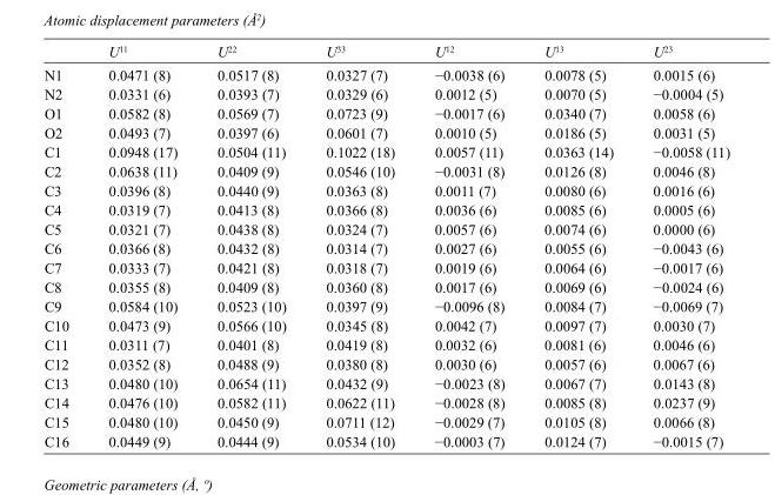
<table><thead><tr><td></td><td>U<sup>11</sup></td><td>U<sup>22</sup></td><td>U<sup>33</sup></td><td>U<sup>12</sup></td><td>U<sup>13</sup></td><td>U<sup>23</sup></td></tr></thead><tbody><tr><td>N1</td><td>0.0471 (8)</td><td>0.0517 (8)</td><td>0.0327 (7)</td><td>−0.0038 (6)</td><td>0.0078 (5)</td><td>0.0015 (6)</td></tr><tr><td>N2</td><td>0.0331 (6)</td><td>0.0393 (7)</td><td>0.0329 (6)</td><td>0.0012 (5)</td><td>0.0070 (5)</td><td>−0.0004 (5)</td></tr><tr><td>O1</td><td>0.0582 (8)</td><td>0.0569 (7)</td><td>0.0723 (9)</td><td>−0.0017 (6)</td><td>0.0340 (7)</td><td>0.0058 (6)</td></tr><tr><td>O2</td><td>0.0493 (7)</td><td>0.0397 (6)</td><td>0.0601 (7)</td><td>0.0010 (5)</td><td>0.0186 (5)</td><td>0.0031 (5)</td></tr><tr><td>C1</td><td>0.0948 (17)</td><td>0.0504 (11)</td><td>0.1022 (18)</td><td>0.0057 (11)</td><td>0.0363 (14)</td><td>−0.0058 (11)</td></tr><tr><td>C2</td><td>0.0638 (11)</td><td>0.0409 (9)</td><td>0.0546 (10)</td><td>−0.0031 (8)</td><td>0.0126 (8)</td><td>0.0046 (8)</td></tr><tr><td>C3</td><td>0.0396 (8)</td><td>0.0440 (9)</td><td>0.0363 (8)</td><td>0.0011 (7)</td><td>0.0080 (6)</td><td>0.0016 (6)</td></tr><tr><td>C4</td><td>0.0319 (7)</td><td>0.0413 (8)</td><td>0.0366 (8)</td><td>0.0036 (6)</td><td>0.0085 (6)</td><td>0.0005 (6)</td></tr><tr><td>C5</td><td>0.0321 (7)</td><td>0.0438 (8)</td><td>0.0324 (7)</td><td>0.0057 (6)</td><td>0.0074 (6)</td><td>0.0000 (6)</td></tr><tr><td>C6</td><td>0.0366 (8)</td><td>0.0432 (8)</td><td>0.0314 (7)</td><td>0.0027 (6)</td><td>0.0055 (6)</td><td>−0.0043 (6)</td></tr><tr><td>C7</td><td>0.0333 (7)</td><td>0.0421 (8)</td><td>0.0318 (7)</td><td>0.0019 (6)</td><td>0.0064 (6)</td><td>−0.0017 (6)</td></tr><tr><td>C8</td><td>0.0355 (8)</td><td>0.0409 (8)</td><td>0.0360 (8)</td><td>0.0017 (6)</td><td>0.0069 (6)</td><td>−0.0024 (6)</td></tr><tr><td>C9</td><td>0.0584 (10)</td><td>0.0523 (10)</td><td>0.0397 (9)</td><td>−0.0096 (8)</td><td>0.0084 (7)</td><td>−0.0069 (7)</td></tr><tr><td>C10</td><td>0.0473 (9)</td><td>0.0566 (10)</td><td>0.0345 (8)</td><td>0.0042 (7)</td><td>0.0097 (7)</td><td>0.0030 (7)</td></tr><tr><td>C11</td><td>0.0311 (7)</td><td>0.0401 (8)</td><td>0.0419 (8)</td><td>0.0032 (6)</td><td>0.0081 (6)</td><td>0.0046 (6)</td></tr><tr><td>C12</td><td>0.0352 (8)</td><td>0.0488 (9)</td><td>0.0380 (8)</td><td>0.0030 (6)</td><td>0.0057 (6)</td><td>0.0067 (6)</td></tr><tr><td>C13</td><td>0.0480 (10)</td><td>0.0654 (11)</td><td>0.0432 (9)</td><td>−0.0023 (8)</td><td>0.0067 (7)</td><td>0.0143 (8)</td></tr><tr><td>C14</td><td>0.0476 (10)</td><td>0.0582 (11)</td><td>0.0622 (11)</td><td>−0.0028 (8)</td><td>0.0085 (8)</td><td>0.0237 (9)</td></tr><tr><td>C15</td><td>0.0480 (10)</td><td>0.0450 (9)</td><td>0.0711 (12)</td><td>−0.0029 (7)</td><td>0.0105 (8)</td><td>0.0066 (8)</td></tr><tr><td>C16</td><td>0.0449 (9)</td><td>0.0444 (9)</td><td>0.0534 (10)</td><td>−0.0003 (7)</td><td>0.0124 (7)</td><td>−0.0015 (7)</td></tr></tbody></table>